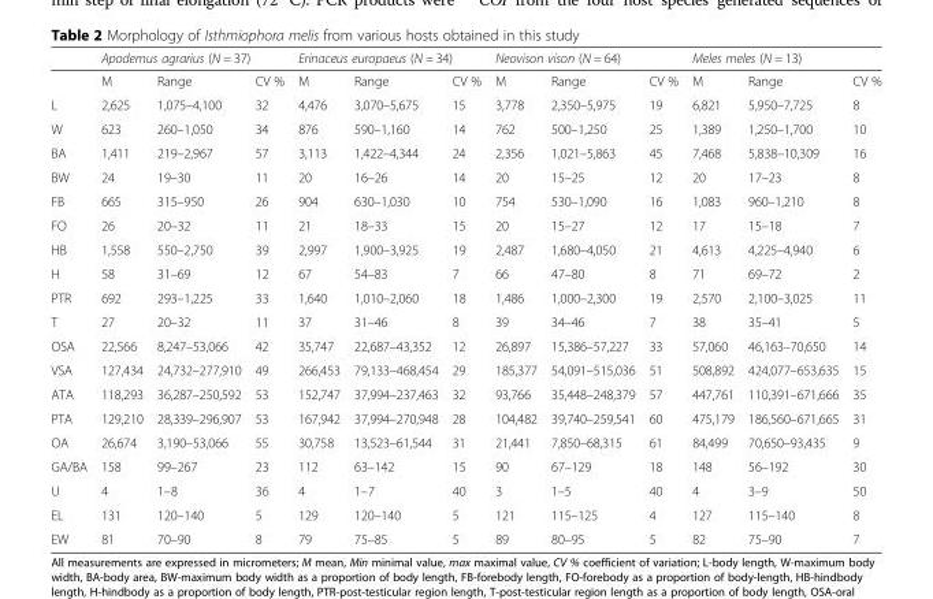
<table><thead><tr><td rowspan="2"></td><td colspan="3">Apodemus agrarius (N = 37)</td><td colspan="3">Erinaceus europaeus (N = 34)</td><td colspan="3">Neovison vison (N = 64)</td><td colspan="3">Meles meles (N = 13)</td></tr><tr><td>M</td><td>Range</td><td>CV %</td><td>M</td><td>Range</td><td>CV %</td><td>M</td><td>Range</td><td>CV %</td><td>M</td><td>Range</td><td>CV %</td></tr></thead><tbody><tr><td>L</td><td>2,625</td><td>1,075–4,100</td><td>32</td><td>4,476</td><td>3,070–5,675</td><td>15</td><td>3,778</td><td>2,350–5,975</td><td>19</td><td>6,821</td><td>5,950–7,725</td><td>8</td></tr><tr><td>W</td><td>623</td><td>260–1,050</td><td>34</td><td>876</td><td>590–1,160</td><td>14</td><td>762</td><td>500–1,250</td><td>25</td><td>1,389</td><td>1,250–1,700</td><td>10</td></tr><tr><td>BA</td><td>1,411</td><td>219–2,967</td><td>57</td><td>3,113</td><td>1,422–4,344</td><td>24</td><td>2,356</td><td>1,021–5,863</td><td>45</td><td>7,468</td><td>5,838–10,309</td><td>16</td></tr><tr><td>BW</td><td>24</td><td>19–30</td><td>11</td><td>20</td><td>16–26</td><td>14</td><td>20</td><td>15–25</td><td>12</td><td>20</td><td>17–23</td><td>8</td></tr><tr><td>FB</td><td>665</td><td>315–950</td><td>26</td><td>904</td><td>630–1,030</td><td>10</td><td>754</td><td>530–1,090</td><td>16</td><td>1,083</td><td>960–1,210</td><td>8</td></tr><tr><td>FO</td><td>26</td><td>20–32</td><td>11</td><td>21</td><td>18–33</td><td>15</td><td>20</td><td>15–27</td><td>12</td><td>17</td><td>15–18</td><td>7</td></tr><tr><td>HB</td><td>1,558</td><td>550–2,750</td><td>39</td><td>2,997</td><td>1,900–3,925</td><td>19</td><td>2,487</td><td>1,680–4,050</td><td>21</td><td>4,613</td><td>4,225–4,940</td><td>6</td></tr><tr><td>H</td><td>58</td><td>31–69</td><td>12</td><td>67</td><td>54–83</td><td>7</td><td>66</td><td>47–80</td><td>8</td><td>71</td><td>69–72</td><td>2</td></tr><tr><td>PTR</td><td>692</td><td>293–1,225</td><td>33</td><td>1,640</td><td>1,010–2,060</td><td>18</td><td>1,486</td><td>1,000–2,300</td><td>19</td><td>2,570</td><td>2,100–3,025</td><td>11</td></tr><tr><td>T</td><td>27</td><td>20–32</td><td>11</td><td>37</td><td>31–46</td><td>8</td><td>39</td><td>34–46</td><td>7</td><td>38</td><td>35–41</td><td>5</td></tr><tr><td>OSA</td><td>22,566</td><td>8,247–53,066</td><td>42</td><td>35,747</td><td>22,687–43,352</td><td>12</td><td>26,897</td><td>15,386–57,227</td><td>33</td><td>57,060</td><td>46,163–70,650</td><td>14</td></tr><tr><td>VSA</td><td>127,434</td><td>24,732–277,910</td><td>49</td><td>266,453</td><td>79,133–468,454</td><td>29</td><td>185,377</td><td>54,091–515,036</td><td>51</td><td>508,892</td><td>424,077–653,635</td><td>15</td></tr><tr><td>ATA</td><td>118,293</td><td>36,287–250,592</td><td>53</td><td>152,747</td><td>37,994–237,463</td><td>32</td><td>93,766</td><td>35,448–248,379</td><td>57</td><td>447,761</td><td>110,391–671,666</td><td>35</td></tr><tr><td>PTA</td><td>129,210</td><td>28,339–296,907</td><td>53</td><td>167,942</td><td>37,994–270,948</td><td>28</td><td>104,482</td><td>39,740–259,541</td><td>60</td><td>475,179</td><td>186,560–671,665</td><td>31</td></tr><tr><td>OA</td><td>26,674</td><td>3,190–53,066</td><td>55</td><td>30,758</td><td>13,523–61,544</td><td>31</td><td>21,441</td><td>7,850–68,315</td><td>61</td><td>84,499</td><td>70,650–93,435</td><td>9</td></tr><tr><td>GA/BA</td><td>158</td><td>99–267</td><td>23</td><td>112</td><td>63–142</td><td>15</td><td>90</td><td>67–129</td><td>18</td><td>148</td><td>56–192</td><td>30</td></tr><tr><td>U</td><td>4</td><td>1–8</td><td>36</td><td>4</td><td>1–7</td><td>40</td><td>3</td><td>1–5</td><td>40</td><td>4</td><td>3–9</td><td>50</td></tr><tr><td>EL</td><td>131</td><td>120–140</td><td>5</td><td>129</td><td>120–140</td><td>5</td><td>121</td><td>115–125</td><td>4</td><td>127</td><td>115–140</td><td>8</td></tr><tr><td>EW</td><td>81</td><td>70–90</td><td>8</td><td>79</td><td>75–85</td><td>5</td><td>89</td><td>80–95</td><td>5</td><td>82</td><td>75–90</td><td>7</td></tr></tbody></table>